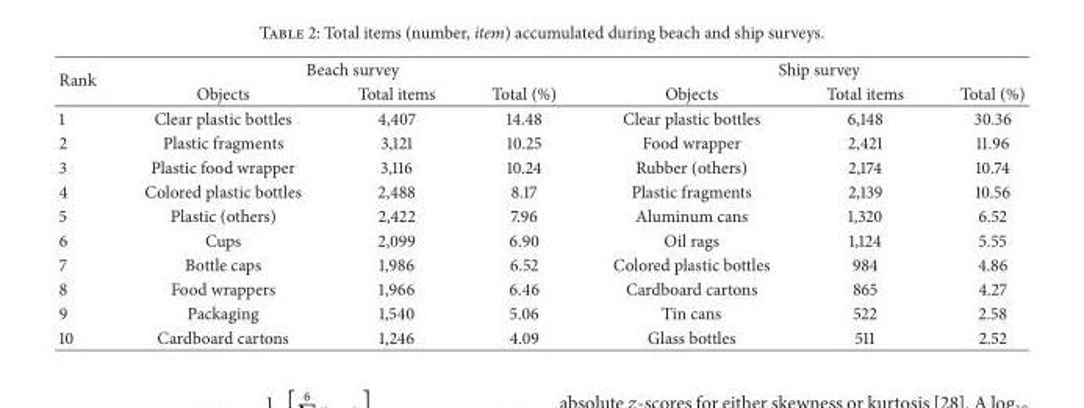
<table><thead><tr><td rowspan="2">Rank</td><td colspan="3">Beach survey</td><td colspan="3">Ship survey</td></tr><tr><td>Objects</td><td>Total items</td><td>Total (%)</td><td>Objects</td><td>Total items</td><td>Total (%)</td></tr></thead><tbody><tr><td>1</td><td>Clear plastic bottles</td><td>4,407</td><td>14.48</td><td>Clear plastic bottles</td><td>6,148</td><td>30.36</td></tr><tr><td>2</td><td>Plastic fragments</td><td>3,121</td><td>10.25</td><td>Food wrapper</td><td>2,421</td><td>11.96</td></tr><tr><td>3</td><td>Plastic food wrapper</td><td>3,116</td><td>10.24</td><td>Rubber (others)</td><td>2,174</td><td>10.74</td></tr><tr><td>4</td><td>Colored plastic bottles</td><td>2,488</td><td>8.17</td><td>Plastic fragments</td><td>2,139</td><td>10.56</td></tr><tr><td>5</td><td>Plastic (others)</td><td>2,422</td><td>7.96</td><td>Aluminum cans</td><td>1,320</td><td>6.52</td></tr><tr><td>6</td><td>Cups</td><td>2,099</td><td>6.90</td><td>Oil rags</td><td>1,124</td><td>5.55</td></tr><tr><td>7</td><td>Bottle caps</td><td>1,986</td><td>6.52</td><td>Colored plastic bottles</td><td>984</td><td>4.86</td></tr><tr><td>8</td><td>Food wrappers</td><td>1,966</td><td>6.46</td><td>Cardboard cartons</td><td>865</td><td>4.27</td></tr><tr><td>9</td><td>Packaging</td><td>1,540</td><td>5.06</td><td>Tin cans</td><td>522</td><td>2.58</td></tr><tr><td>10</td><td>Cardboard cartons</td><td>1,246</td><td>4.09</td><td>Glass bottles</td><td>511</td><td>2.52</td></tr></tbody></table>